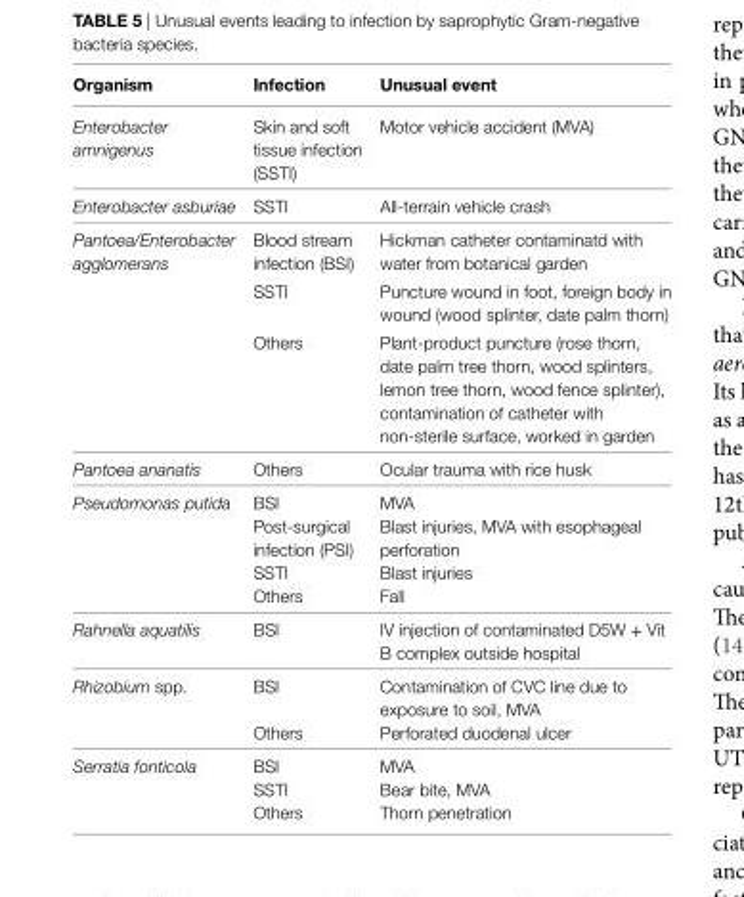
<table><thead><tr><td>Organism</td><td>infection</td><td>Unusual event</td></tr></thead><tbody><tr><td>Enterobacter amnigenus</td><td>Skin and soft tissue infection (SSTI)</td><td>Motor vehicle accident (MVA)</td></tr><tr><td>Enterobacter asburiae</td><td>SSTI</td><td>All-terrain vehicle crash</td></tr><tr><td rowspan="3">Pantoea/Enterobacter agglomerans</td><td>Blood stream infection (BSI)</td><td>Hickman catheter contaminatd with water from botanical garden</td></tr><tr><td>SSTI</td><td>Puncture wound in foot, foreign body in wound (wood splinter, date palm thorn)</td></tr><tr><td>Others</td><td>Plant-product puncture (rose thorn, date palm tree thorn, wood splinters, lemon tree thorn, wood fence splinter), contamination of catheter with non-sterile surface, worked in garden</td></tr><tr><td>Pantoea ananatis</td><td>Others</td><td>Ocular trauma with rice husk</td></tr><tr><td rowspan="4">Pseudomonas putida</td><td>BSI</td><td>MVA</td></tr><tr><td>Post-surgical infection (PSI)</td><td>Blast injuries, MVA with esophageal perforation</td></tr><tr><td>SSTI</td><td>Blast injuries</td></tr><tr><td>Others</td><td>Fall</td></tr><tr><td>Rahnella aquatilis</td><td>BSI</td><td>IV injection of contaminated D5W + Vit B complex outside hospital</td></tr><tr><td rowspan="2">Rhizobium spp.</td><td>BSI</td><td>Contamination of CVC line due to exposure to soil, MVA</td></tr><tr><td>Others</td><td>Perforated duodenal ulcer</td></tr><tr><td rowspan="3">Serratia fonticola</td><td>BSI</td><td>MVA</td></tr><tr><td>SSTI</td><td>Bear bite, MVA</td></tr><tr><td>Others</td><td>Thorn penetration</td></tr></tbody></table>